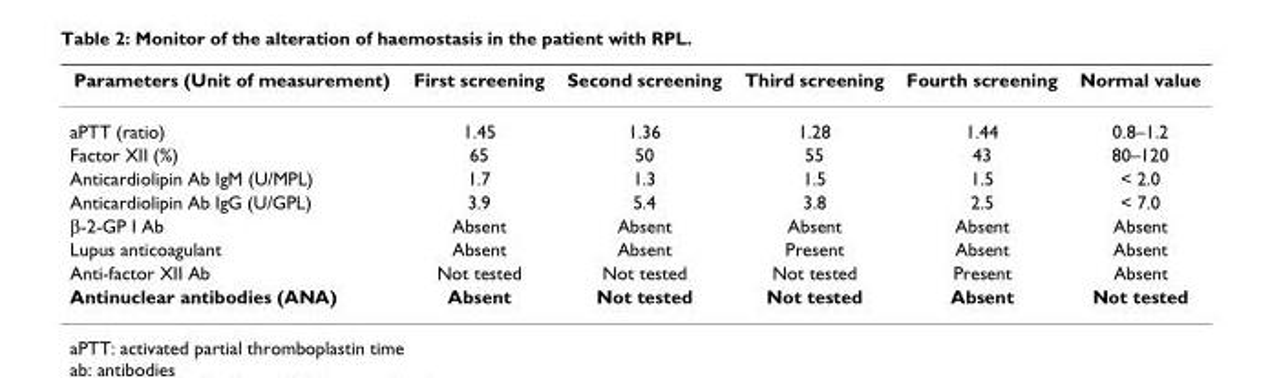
<table><thead><tr><td>Parameters (Unit of measurement)</td><td>First screening</td><td>Second screening</td><td>Third screening</td><td>Fourth screening</td><td>Normal value</td></tr></thead><tbody><tr><td>aPTT (ratio)</td><td>1.45</td><td>1.36</td><td>1.28</td><td>1.44</td><td>0.8–1.2</td></tr><tr><td>Factor XII (%)</td><td>65</td><td>50</td><td>55</td><td>43</td><td>80–120</td></tr><tr><td>Anticardiolipin Ab IgM (U/MPL)</td><td>1.7</td><td>1.3</td><td>1.5</td><td>1.5</td><td>&lt; 2.0</td></tr><tr><td>Anticardiolipin Ab IgG (U/GPL)</td><td>3.9</td><td>5.4</td><td>3.8</td><td>2.5</td><td>&lt; 7.0</td></tr><tr><td>β-2-GP I Ab</td><td>Absent</td><td>Absent</td><td>Absent</td><td>Absent</td><td>Absent</td></tr><tr><td>Lupus anticoagulant</td><td>Absent</td><td>Absent</td><td>Present</td><td>Absent</td><td>Absent</td></tr><tr><td>Anti-factor XII Ab</td><td>Not tested</td><td>Not tested</td><td>Not tested</td><td>Present</td><td>Absent</td></tr><tr><td>Antinuclear antibodies (ANA)</td><td>Absent</td><td>Not tested</td><td>Not tested</td><td>Absent</td><td>Not tested</td></tr></tbody></table>